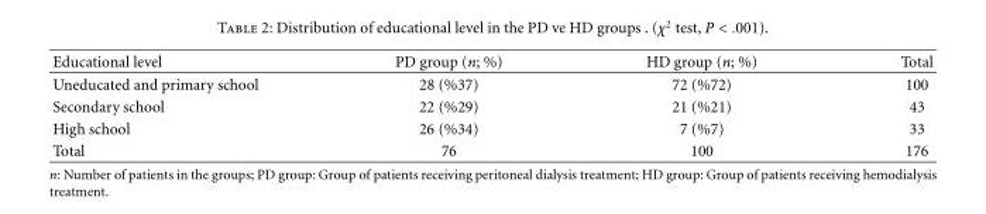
<table><thead><tr><td>Educational level</td><td>PD group (n; %)</td><td>HD group (n; %)</td><td>Total</td></tr></thead><tbody><tr><td>Uneducated and primary school</td><td>28 (%37)</td><td>72 (%72)</td><td>100</td></tr><tr><td>Secondary school</td><td>22 (%29)</td><td>21 (%21)</td><td>43</td></tr><tr><td>High school</td><td>26 (%34)</td><td>7 (%7)</td><td>33</td></tr><tr><td>Total</td><td>76</td><td>100</td><td>176</td></tr></tbody></table>